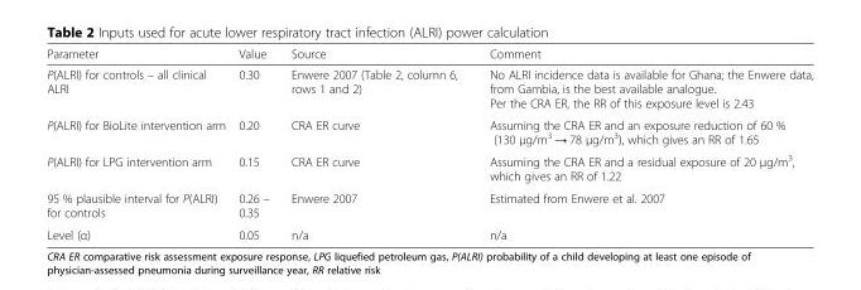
<table><thead><tr><td>Parameter</td><td>Value</td><td>Source</td><td>Comment</td></tr></thead><tbody><tr><td>P(ALRI) for controls – all clinical ALRI</td><td>0.30</td><td>Enwere 2007 (Table 2, column 6, rows 1 and 2)</td><td>No ALRI incidence data is available for Ghana; the Enwere data, from Gambia, is the best available analogue. Per the CRA ER, the RR of this exposure level is 2.43</td></tr><tr><td>P(ALRI) for BioLite intervention arm</td><td>0.20</td><td>CRA ER curve</td><td>Assuming the CRA ER and an exposure reduction of 60 % (130 μg/m<sup>3</sup> → 78 μg/m<sup>3</sup>), which gives an RR of 1.65</td></tr><tr><td>P(ALRI) for LPG intervention arm</td><td>0.15</td><td>CRA ER curve</td><td>Assuming the CRA ER and a residual exposure of 20 μg/m<sup>3</sup>, which gives an RR of 1.22</td></tr><tr><td>95 % plausible interval for P(ALRI) for controls</td><td>0.26 – 0.35</td><td>Enwere 2007</td><td>Estimated from Enwere et al. 2007</td></tr><tr><td>Level (α)</td><td>0.05</td><td>n/a</td><td>n/a</td></tr></tbody></table>